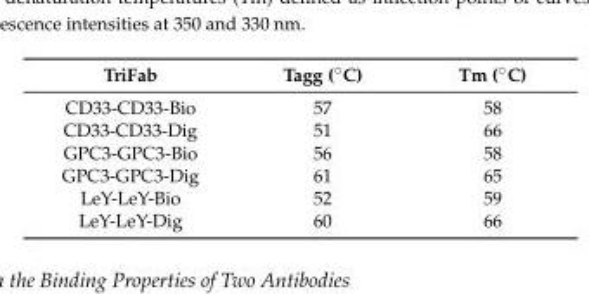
<table><thead><tr><td>TriFab</td><td>Tagg (˝C)</td><td>Tm (˝C)</td></tr></thead><tbody><tr><td>CD33-CD33-Bio</td><td>57</td><td>58</td></tr><tr><td>CD33-CD33-Dig</td><td>51</td><td>66</td></tr><tr><td>GPC3-GPC3-Bio</td><td>56</td><td>58</td></tr><tr><td>GPC3-GPC3-Dig</td><td>61</td><td>65</td></tr><tr><td>LeY-LeY-Bio</td><td>52</td><td>59</td></tr><tr><td>LeY-LeY-Dig</td><td>60</td><td>66</td></tr></tbody></table>